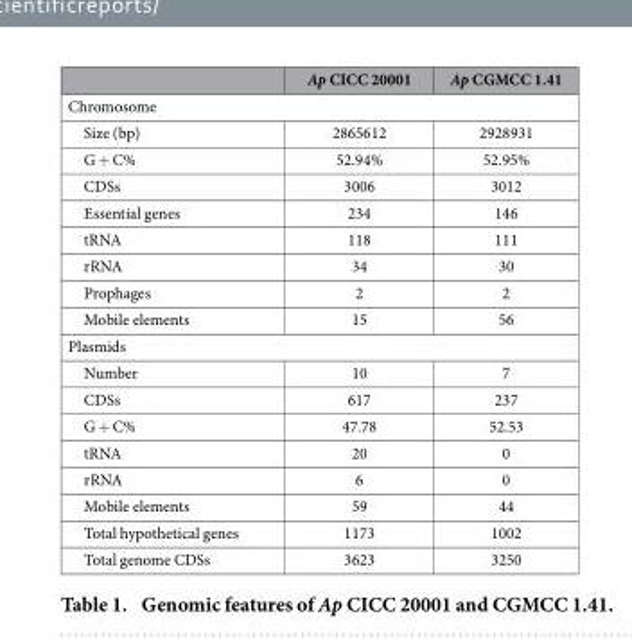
<table><thead><tr><td></td><td>Ap CICC 20001</td><td>Ap CGMCC 1.41</td></tr></thead><tbody><tr><td colspan="3">Chromosome</td></tr><tr><td>Size (bp)</td><td>2865612</td><td>2928931</td></tr><tr><td>G + C%</td><td>52.94%</td><td>52.95%</td></tr><tr><td>CDSs</td><td>3006</td><td>3012</td></tr><tr><td>Essential genes</td><td>234</td><td>146</td></tr><tr><td>tRNA</td><td>118</td><td>111</td></tr><tr><td>rRNA</td><td>34</td><td>30</td></tr><tr><td>Prophages</td><td>2</td><td>2</td></tr><tr><td>Mobile elements</td><td>15</td><td>56</td></tr><tr><td colspan="3">Plasmids</td></tr><tr><td>Number</td><td>10</td><td>7</td></tr><tr><td>CDSs</td><td>617</td><td>237</td></tr><tr><td>G + C%</td><td>47.78</td><td>52.53</td></tr><tr><td>tRNA</td><td>20</td><td>0</td></tr><tr><td>rRNA</td><td>6</td><td>0</td></tr><tr><td>Mobile elements</td><td>59</td><td>44</td></tr><tr><td>Total hypothetical genes</td><td>1173</td><td>1002</td></tr><tr><td>Total genome CDSs</td><td>3623</td><td>3250</td></tr></tbody></table>